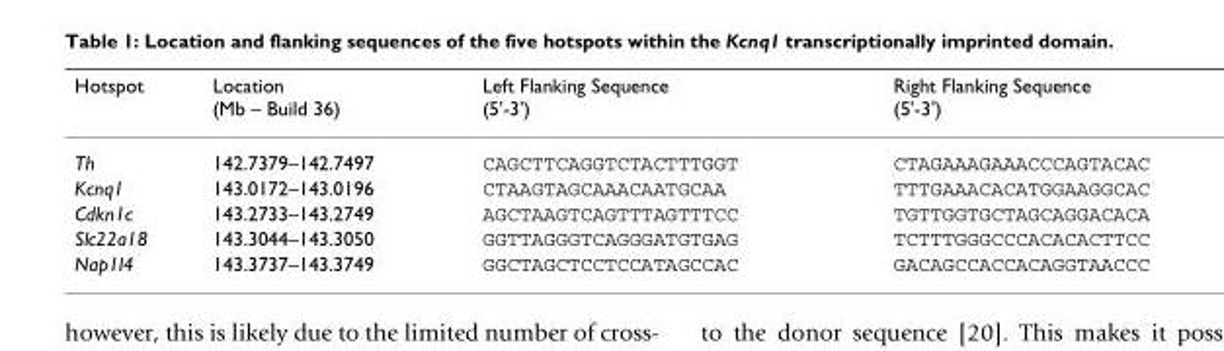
<table><thead><tr><td>Hotspot</td><td>Location (Mb – Build 36)</td><td>Left Flanking Sequence (5&#x27;-3&#x27;)</td><td>Right Flanking Sequence (5&#x27;-3&#x27;)</td></tr></thead><tbody><tr><td>Th</td><td>142.7379–142.7497</td><td>CAGCTTCAGGTCTACTTTGGT</td><td>CTAGAAAGAAACCCAGTACAC</td></tr><tr><td>Kcnq1</td><td>143.0172–143.0196</td><td>CTAAGTAGCAAACAATGCAA</td><td>TTTGAAACACATGGAAGGCAC</td></tr><tr><td>Cdkn1c</td><td>143.2733–143.2749</td><td>AGCTAAGTCAGTTTAGTTTCC</td><td>TGTTGGTGCTAGCAGGACACA</td></tr><tr><td>Slc22a18</td><td>143.3044–143.3050</td><td>GGTTAGGGTCAGGGATGTGAG</td><td>TCTTTGGGCCCACACACTTCC</td></tr><tr><td>Nap1l4</td><td>143.3737–143.3749</td><td>GGCTAGCTCCTCCATAGCCAC</td><td>GACAGCCACCACAGGTAACCC</td></tr></tbody></table>